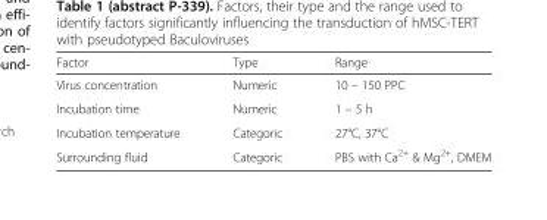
<table><thead><tr><td>Factor</td><td>Type</td><td>Range</td></tr></thead><tbody><tr><td>Virus concentration</td><td>Numeric</td><td>10 – 150 PPC</td></tr><tr><td>Incubation time</td><td>Numeric</td><td>1 – 5 h</td></tr><tr><td>Incubation temperature</td><td>Categoric</td><td>27°C, 37°C</td></tr><tr><td>Surrounding fluid</td><td>Categoric</td><td>PBS with Ca<sup>2+</sup> &amp; Mg<sup>2+</sup>, DMEM</td></tr></tbody></table>